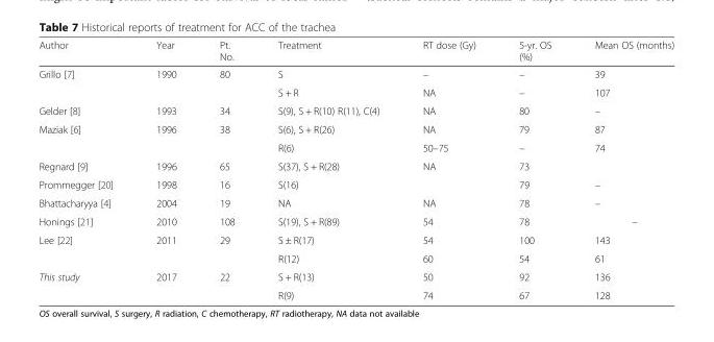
<table><thead><tr><td>Author</td><td>Year</td><td>Pt. No.</td><td>Treatment</td><td>RT dose (Gy)</td><td>5-yr. OS (%)</td><td>Mean OS (months)</td></tr></thead><tbody><tr><td rowspan="2">Grillo [7]</td><td>1990</td><td>80</td><td>S</td><td>–</td><td>–</td><td>39</td></tr><tr><td></td><td></td><td>S + R</td><td>NA</td><td>–</td><td>107</td></tr><tr><td>Gelder [8]</td><td>1993</td><td>34</td><td>S(9), S + R(10) R(11), C(4)</td><td>NA</td><td>80</td><td>–</td></tr><tr><td rowspan="2">Maziak [6]</td><td>1996</td><td>38</td><td>S(6), S + R(26)</td><td>NA</td><td>79</td><td>87</td></tr><tr><td></td><td></td><td>R(6)</td><td>50–75</td><td>–</td><td>74</td></tr><tr><td>Regnard [9]</td><td>1996</td><td>65</td><td>S(37), S + R(28)</td><td>NA</td><td>73</td><td></td></tr><tr><td>Prommegger [20]</td><td>1998</td><td>16</td><td>S(16)</td><td></td><td>79</td><td>–</td></tr><tr><td>Bhattacharyya [4]</td><td>2004</td><td>19</td><td>NA</td><td>NA</td><td>78</td><td>–</td></tr><tr><td>Honings [21]</td><td>2010</td><td>108</td><td>S(19), S + R(89)</td><td>54</td><td>78</td><td>–</td></tr><tr><td rowspan="2">Lee [22]</td><td>2011</td><td>29</td><td>S ± R(17)</td><td>54</td><td>100</td><td>143</td></tr><tr><td></td><td></td><td>R(12)</td><td>60</td><td>54</td><td>61</td></tr><tr><td rowspan="2">This study</td><td>2017</td><td>22</td><td>S + R(13)</td><td>50</td><td>92</td><td>136</td></tr><tr><td></td><td></td><td>R(9)</td><td>74</td><td>67</td><td>128</td></tr></tbody></table>